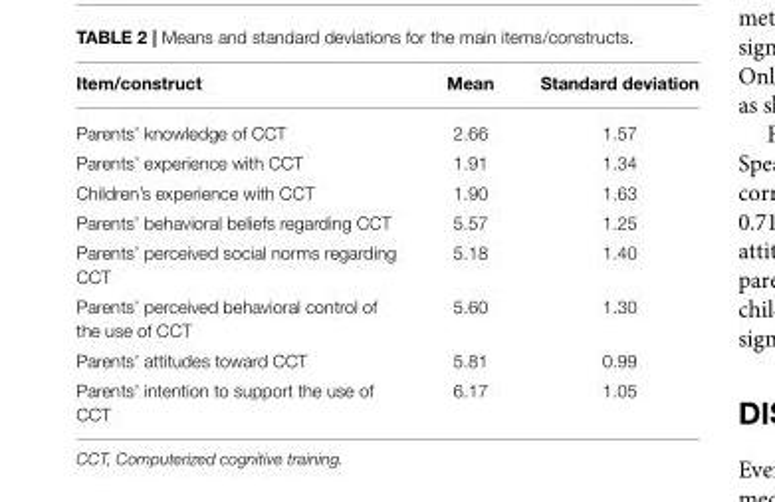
<table><thead><tr><td>Item/construct</td><td>Mean</td><td>Standard deviation</td></tr></thead><tbody><tr><td>Parents’ knowledge of CCT</td><td>2.66</td><td>1.57</td></tr><tr><td>Parents’ experience with CCT</td><td>1.91</td><td>1.34</td></tr><tr><td>Children’s experience with CCT</td><td>1.90</td><td>1.63</td></tr><tr><td>Parents’ behavioral beliefs regarding CCT</td><td>5.57</td><td>1.25</td></tr><tr><td>Parents’ perceived social norms regarding CCT</td><td>5.18</td><td>1.40</td></tr><tr><td>Parents’ perceived behavioral control of the use of CCT</td><td>5.60</td><td>1.30</td></tr><tr><td>Parents’ attitudes toward CCT</td><td>5.81</td><td>0.99</td></tr><tr><td>Parents’ intention to support the use of CCT</td><td>6.17</td><td>1.05</td></tr></tbody></table>